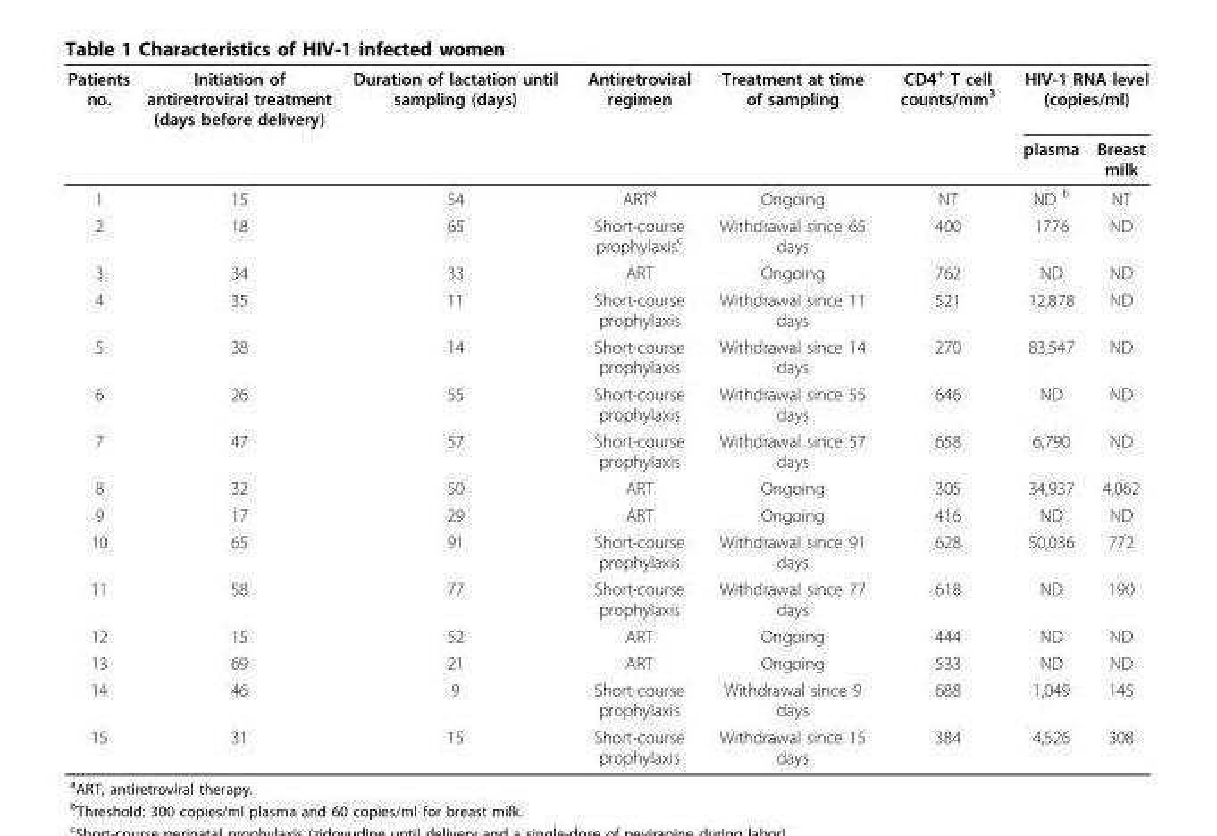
<table><thead><tr><td rowspan="2">Patients no.</td><td rowspan="2">Initiation of antiretroviral treatment (days before delivery)</td><td rowspan="2">Duration of lactation until sampling (days)</td><td rowspan="2">Antiretroviral regimen</td><td rowspan="2">Treatment at time of sampling</td><td rowspan="2">CD4<sup>+</sup> T cell counts/mm<sup>3</sup></td><td colspan="2">HIV-1 RNA level (copies/ml)</td></tr><tr><td>plasma</td><td>Breast milk</td></tr></thead><tbody><tr><td>1</td><td>15</td><td>54</td><td>ART<sup>a</sup></td><td>Ongoing</td><td>NT</td><td>ND <sup>b</sup></td><td>NT</td></tr><tr><td>2</td><td>18</td><td>65</td><td>Short-course prophylaxis<sup>c</sup></td><td>Withdrawal since 65 days</td><td>400</td><td>1776</td><td>ND</td></tr><tr><td>3</td><td>34</td><td>33</td><td>ART</td><td>Ongoing</td><td>762</td><td>ND</td><td>ND</td></tr><tr><td>4</td><td>35</td><td>11</td><td>Short-course prophylaxis</td><td>Withdrawal since 11 days</td><td>521</td><td>12,878</td><td>ND</td></tr><tr><td>5</td><td>38</td><td>14</td><td>Short-course prophylaxis</td><td>Withdrawal since 14 days</td><td>270</td><td>83,547</td><td>ND</td></tr><tr><td>6</td><td>26</td><td>55</td><td>Short-course prophylaxis</td><td>Withdrawal since 55 days</td><td>646</td><td>ND</td><td>ND</td></tr><tr><td>7</td><td>47</td><td>57</td><td>Short-course prophylaxis</td><td>Withdrawal since 57 days</td><td>658</td><td>6,790</td><td>ND</td></tr><tr><td>8</td><td>32</td><td>50</td><td>ART</td><td>Ongoing</td><td>305</td><td>34,937</td><td>4,062</td></tr><tr><td>9</td><td>17</td><td>29</td><td>ART</td><td>Ongoing</td><td>416</td><td>ND</td><td>ND</td></tr><tr><td>10</td><td>65</td><td>91</td><td>Short-course prophylaxis</td><td>Withdrawal since 91 days</td><td>628</td><td>50,036</td><td>772</td></tr><tr><td>11</td><td>58</td><td>77</td><td>Short-course prophylaxis</td><td>Withdrawal since 77 days</td><td>618</td><td>ND</td><td>190</td></tr><tr><td>12</td><td>15</td><td>52</td><td>ART</td><td>Ongoing</td><td>444</td><td>ND</td><td>ND</td></tr><tr><td>13</td><td>69</td><td>21</td><td>ART</td><td>Ongoing</td><td>533</td><td>ND</td><td>ND</td></tr><tr><td>14</td><td>46</td><td>9</td><td>Short-course prophylaxis</td><td>Withdrawal since 9 days</td><td>688</td><td>1,049</td><td>145</td></tr><tr><td>15</td><td>31</td><td>15</td><td>Short-course prophylaxis</td><td>Withdrawal since 15 days</td><td>384</td><td>4,526</td><td>308</td></tr></tbody></table>